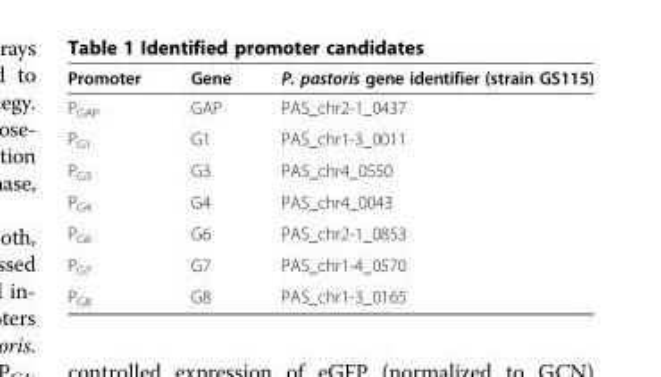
<table><thead><tr><td>Promoter</td><td>Gene</td><td>P. pastoris gene identifier (strain GS115)</td></tr></thead><tbody><tr><td>P<sub>GAP</sub></td><td>GAP</td><td>PAS_chr2-1_0437</td></tr><tr><td>P<sub>G1</sub></td><td>G1</td><td>PAS_chr1-3_0011</td></tr><tr><td>P<sub>G3</sub></td><td>G3</td><td>PAS_chr4_0550</td></tr><tr><td>P<sub>G4</sub></td><td>G4</td><td>PAS_chr4_0043</td></tr><tr><td>P<sub>G6</sub></td><td>G6</td><td>PAS_chr2-1_0853</td></tr><tr><td>P<sub>G7</sub></td><td>G7</td><td>PAS_chr1-4_0570</td></tr><tr><td>P<sub>G8</sub></td><td>G8</td><td>PAS_chr1-3_0165</td></tr></tbody></table>